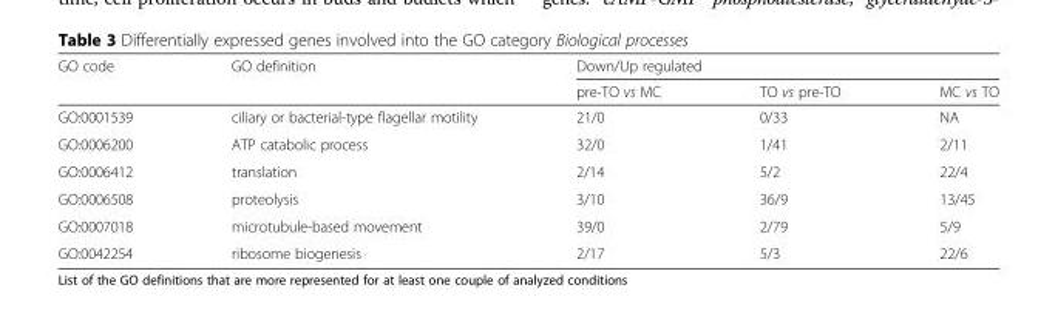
<table><thead><tr><td rowspan="2">GO code</td><td rowspan="2">GO definition</td><td colspan="3">Down/Up regulated</td></tr><tr><td>pre-TO vs MC</td><td>TO vs pre-TO</td><td>MC vs TO</td></tr></thead><tbody><tr><td>GO:0001539</td><td>ciliary or bacterial-type flagellar motility</td><td>21/0</td><td>0/33</td><td>NA</td></tr><tr><td>GO:0006200</td><td>ATP catabolic process</td><td>32/0</td><td>1/41</td><td>2/11</td></tr><tr><td>GO:0006412</td><td>translation</td><td>2/14</td><td>5/2</td><td>22/4</td></tr><tr><td>GO:0006508</td><td>proteolysis</td><td>3/10</td><td>36/9</td><td>13/45</td></tr><tr><td>GO:0007018</td><td>microtubule-based movement</td><td>39/0</td><td>2/79</td><td>5/9</td></tr><tr><td>GO:0042254</td><td>ribosome biogenesis</td><td>2/17</td><td>5/3</td><td>22/6</td></tr></tbody></table>